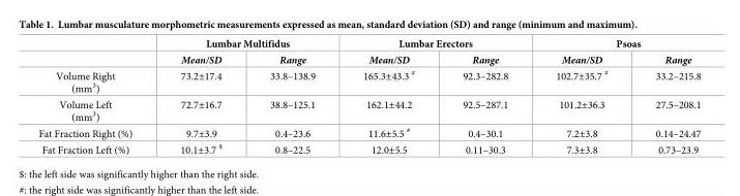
<table><thead><tr><td rowspan="2"></td><td colspan="2">Lumbar Multifidus</td><td colspan="2">Lumbar Erectors</td><td colspan="2">Psoas</td></tr><tr><td>Mean/SD</td><td>Range</td><td>Mean/SD</td><td>Range</td><td>Mean/SD</td><td>Range</td></tr></thead><tbody><tr><td>Volume Right (mm<sup>3</sup>)</td><td>73.2±17.4</td><td>33.8–138.9</td><td>165.3±43.3 <sup>#</sup></td><td>92.3–282.8</td><td>102.7±35.7 <sup>#</sup></td><td>33.2–215.8</td></tr><tr><td>Volume Left (mm<sup>3</sup>)</td><td>72.7±16.7</td><td>38.8–125.1</td><td>162.1±44.2</td><td>92.5–287.1</td><td>101.2±36.3</td><td>27.5–208.1</td></tr><tr><td>Fat Fraction Right (%)</td><td>9.7±3.9</td><td>0.4–23.6</td><td>11.6±5.5 <sup>#</sup></td><td>0.4–30.1</td><td>7.2±3.8</td><td>0.14–24.47</td></tr><tr><td>Fat Fraction Left (%)</td><td>10.1±3.7 <sup>$</sup></td><td>0.8–22.5</td><td>12.0±5.5</td><td>0.11–30.3</td><td>7.3±3.8</td><td>0.73–23.9</td></tr></tbody></table>